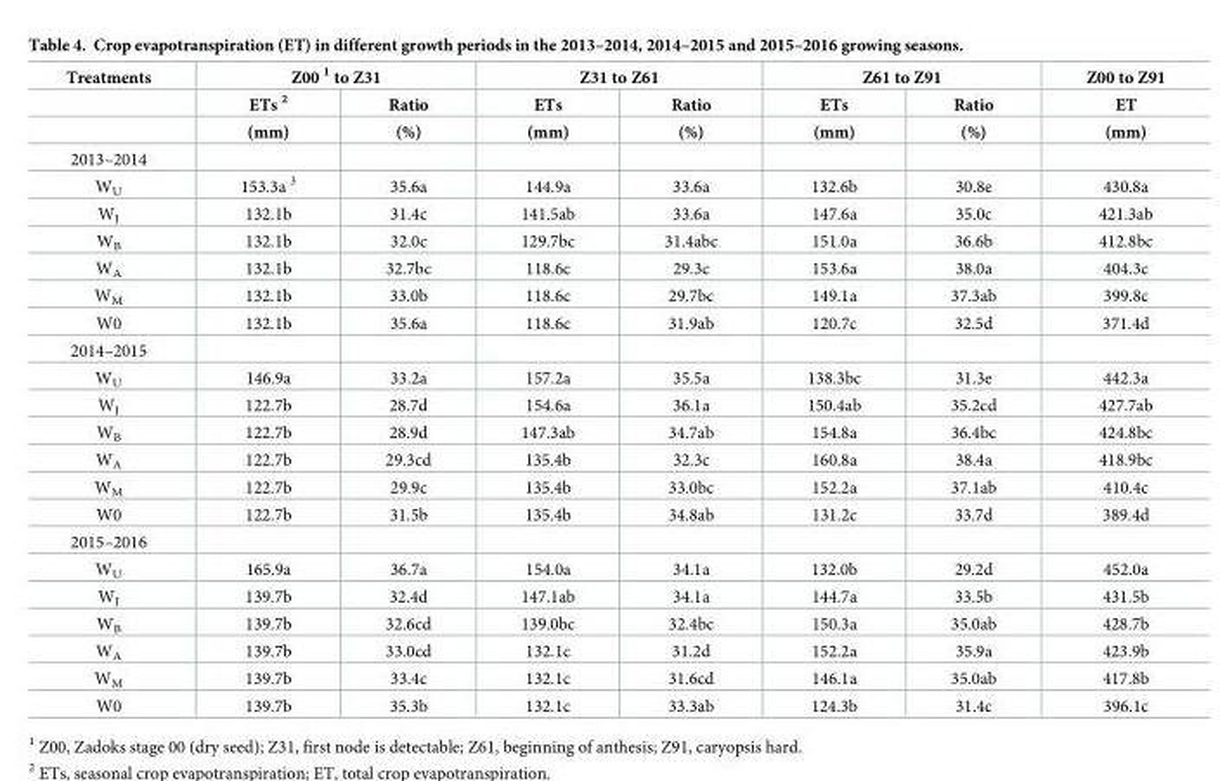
<table><thead><tr><td rowspan="3">Treatments</td><td colspan="2">Z00 <sup>1</sup> to Z31</td><td colspan="2">Z31 to Z61</td><td colspan="2">Z61 to Z91</td><td rowspan="3">Z00 to Z91 ET (mm)</td></tr><tr><td rowspan="2">ETs <sup>2</sup> (mm)</td><td rowspan="2">Ratio (%)</td><td rowspan="2">ETs (mm)</td><td rowspan="2">Ratio (%)</td><td rowspan="2">ETs (mm)</td><td rowspan="2">Ratio (%)</td></tr><tr></tr></thead><tbody><tr><td colspan="8">2013–2014</td></tr><tr><td>W<sub>U</sub></td><td>153.3a <sup>3</sup></td><td>35.6a</td><td>144.9a</td><td>33.6a</td><td>132.6b</td><td>30.8e</td><td>430.8a</td></tr><tr><td>W<sub>J</sub></td><td>132.1b</td><td>31.4c</td><td>141.5ab</td><td>33.6a</td><td>147.6a</td><td>35.0c</td><td>421.3ab</td></tr><tr><td>W<sub>B</sub></td><td>132.1b</td><td>32.0c</td><td>129.7bc</td><td>31.4abc</td><td>151.0a</td><td>36.6b</td><td>412.8bc</td></tr><tr><td>W<sub>A</sub></td><td>132.1b</td><td>32.7bc</td><td>118.6c</td><td>29.3c</td><td>153.6a</td><td>38.0a</td><td>404.3c</td></tr><tr><td>W<sub>M</sub></td><td>132.1b</td><td>33.0b</td><td>118.6c</td><td>29.7bc</td><td>149.1a</td><td>37.3ab</td><td>399.8c</td></tr><tr><td>W0</td><td>132.1b</td><td>35.6a</td><td>118.6c</td><td>31.9ab</td><td>120.7c</td><td>32.5d</td><td>371.4d</td></tr><tr><td colspan="8">2014–2015</td></tr><tr><td>W<sub>U</sub></td><td>146.9a</td><td>33.2a</td><td>157.2a</td><td>35.5a</td><td>138.3bc</td><td>31.3e</td><td>442.3a</td></tr><tr><td>W<sub>J</sub></td><td>122.7b</td><td>28.7d</td><td>154.6a</td><td>36.1a</td><td>150.4ab</td><td>35.2cd</td><td>427.7ab</td></tr><tr><td>W<sub>B</sub></td><td>122.7b</td><td>28.9d</td><td>147.3ab</td><td>34.7ab</td><td>154.8a</td><td>36.4bc</td><td>424.8bc</td></tr><tr><td>W<sub>A</sub></td><td>122.7b</td><td>29.3cd</td><td>135.4b</td><td>32.3c</td><td>160.8a</td><td>38.4a</td><td>418.9bc</td></tr><tr><td>W<sub>M</sub></td><td>122.7b</td><td>29.9c</td><td>135.4b</td><td>33.0bc</td><td>152.2a</td><td>37.1ab</td><td>410.4c</td></tr><tr><td>W0</td><td>122.7b</td><td>31.5b</td><td>135.4b</td><td>34.8ab</td><td>131.2c</td><td>33.7d</td><td>389.4d</td></tr><tr><td colspan="8">2015–2016</td></tr><tr><td>W<sub>U</sub></td><td>165.9a</td><td>36.7a</td><td>154.0a</td><td>34.1a</td><td>132.0b</td><td>29.2d</td><td>452.0a</td></tr><tr><td>W<sub>J</sub></td><td>139.7b</td><td>32.4d</td><td>147.1ab</td><td>34.1a</td><td>144.7a</td><td>33.5b</td><td>431.5b</td></tr><tr><td>W<sub>B</sub></td><td>139.7b</td><td>32.6cd</td><td>139.0bc</td><td>32.4bc</td><td>150.3a</td><td>35.0ab</td><td>428.7b</td></tr><tr><td>W<sub>A</sub></td><td>139.7b</td><td>33.0cd</td><td>132.1c</td><td>31.2d</td><td>152.2a</td><td>35.9a</td><td>423.9b</td></tr><tr><td>W<sub>M</sub></td><td>139.7b</td><td>33.4c</td><td>132.1c</td><td>31.6cd</td><td>146.1a</td><td>35.0ab</td><td>417.8b</td></tr><tr><td>W0</td><td>139.7b</td><td>35.3b</td><td>132.1c</td><td>33.3ab</td><td>124.3b</td><td>31.4c</td><td>396.1c</td></tr></tbody></table>